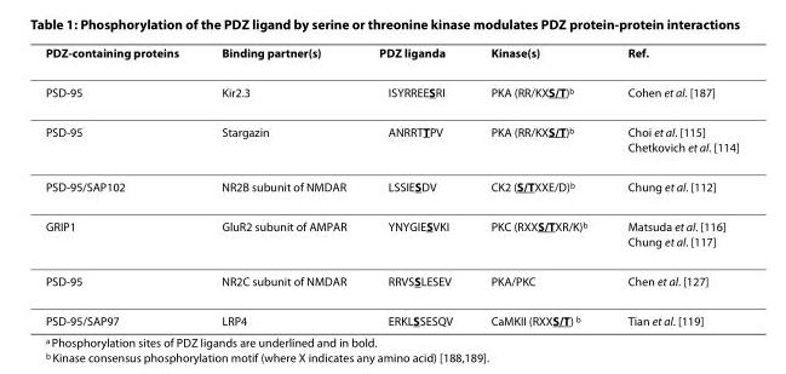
<table><thead><tr><td>PDZ-containing proteins</td><td>Binding partner(s)</td><td>PDZ ligand<sup>a</sup></td><td>Kinase(s)</td><td>Ref.</td></tr></thead><tbody><tr><td>PSD-95</td><td>Kir2.3</td><td>ISYRREESRI</td><td>PKA (RR/KXS/T)<sup>b</sup></td><td>Cohen et al. [187]</td></tr><tr><td>PSD-95</td><td>Stargazin</td><td>ANRRTTPV</td><td>PKA (RR/KXS/T)<sup>b</sup></td><td>Choi et al. [115] Chetkovich et al. [114]</td></tr><tr><td>PSD-95/SAP102</td><td>NR2B subunit of NMDAR</td><td>LSSIESDV</td><td>CK2 (S/TXXE/D)<sup>b</sup></td><td>Chung et al. [112]</td></tr><tr><td>GRIP1</td><td>GluR2 subunit of AMPAR</td><td>YNYGIESVKI</td><td>PKC (RXXS/TXR/K)<sup>b</sup></td><td>Matsuda et al. [116] Chung et al. [117]</td></tr><tr><td>PSD-95</td><td>NR2C subunit of NMDAR</td><td>RRVSSLESEV</td><td>PKA/PKC</td><td>Chen et al. [127]</td></tr><tr><td>PSD-95/SAP97</td><td>LRP4</td><td>ERKLSSESQV</td><td>CaMKII (RXXS/T) <sup>b</sup></td><td>Tian et al. [119]</td></tr></tbody></table>